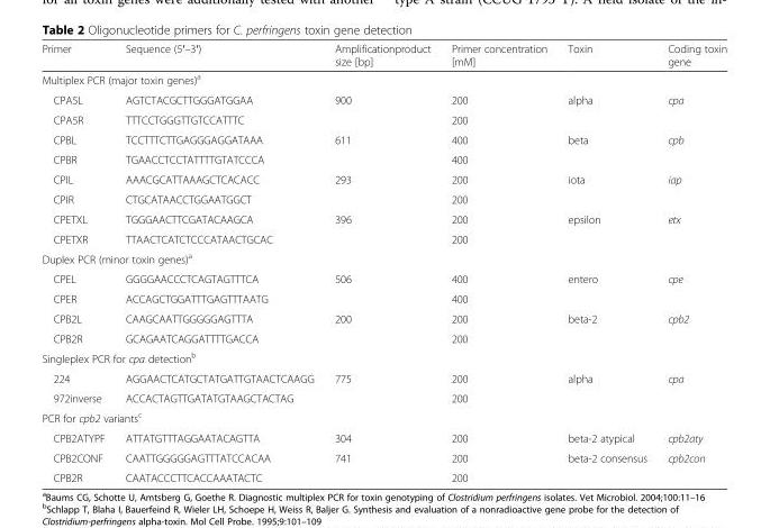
<table><thead><tr><td>Primer</td><td>Sequence (5′–3′)</td><td>Amplificationproduct size [bp]</td><td>Primer concentration [mM]</td><td>Toxin</td><td>Coding toxin gene</td></tr></thead><tbody><tr><td colspan="6">Multiplex PCR (major toxin genes)<sup>a</sup></td></tr><tr><td>CPA5L</td><td>AGTCTACGCTTGGGATGGAA</td><td>900</td><td>200</td><td>alpha</td><td>cpa</td></tr><tr><td>CPA5R</td><td>TTTCCTGGGTTGTCCATTTC</td><td></td><td>200</td><td></td><td></td></tr><tr><td>CPBL</td><td>TCCTTTCTTGAGGGAGGATAAA</td><td>611</td><td>400</td><td>beta</td><td>cpb</td></tr><tr><td>CPBR</td><td>TGAACCTCCTATTTTGTATCCCA</td><td></td><td>400</td><td></td><td></td></tr><tr><td>CPIL</td><td>AAACGCATTAAAGCTCACACC</td><td>293</td><td>200</td><td>iota</td><td>iap</td></tr><tr><td>CPIR</td><td>CTGCATAACCTGGAATGGCT</td><td></td><td>200</td><td></td><td></td></tr><tr><td>CPETXL</td><td>TGGGAACTTCGATACAAGCA</td><td>396</td><td>200</td><td>epsilon</td><td>etx</td></tr><tr><td>CPETXR</td><td>TTAACTCATCTCCCATAACTGCAC</td><td></td><td>200</td><td></td><td></td></tr><tr><td colspan="6">Duplex PCR (minor toxin genes)<sup>a</sup></td></tr><tr><td>CPEL</td><td>GGGGAACCCTCAGTAGTTTCA</td><td>506</td><td>400</td><td>entero</td><td>cpe</td></tr><tr><td>CPER</td><td>ACCAGCTGGATTTGAGTTTAATG</td><td></td><td>400</td><td></td><td></td></tr><tr><td>CPB2L</td><td>CAAGCAATTGGGGGAGTTTA</td><td>200</td><td>200</td><td>beta-2</td><td>cpb2</td></tr><tr><td>CPB2R</td><td>GCAGAATCAGGATTTTGACCA</td><td></td><td>200</td><td></td><td></td></tr><tr><td colspan="6">Singleplex PCR for cpa detection<sup>b</sup></td></tr><tr><td>224</td><td>AGGAACTCATGCTATGATTGTAACTCAAGG</td><td>775</td><td>200</td><td>alpha</td><td>cpa</td></tr><tr><td>972inverse</td><td>ACCACTAGTTGATATGTAAGCTACTAG</td><td></td><td>200</td><td></td><td></td></tr><tr><td colspan="6">PCR for cpb2 variants<sup>c</sup></td></tr><tr><td>CPB2ATYPF</td><td>ATTATGTTTAGGAATACAGTTA</td><td>304</td><td>200</td><td>beta-2 atypical</td><td>cpb2aty</td></tr><tr><td>CPB2CONF</td><td>CAATTGGGGGAGTTTATCCACAA</td><td>741</td><td>200</td><td>beta-2 consensus</td><td>cpb2con</td></tr><tr><td>CPB2R</td><td>CAATACCCTTCACCAAATACTC</td><td></td><td>200</td><td></td><td></td></tr></tbody></table>